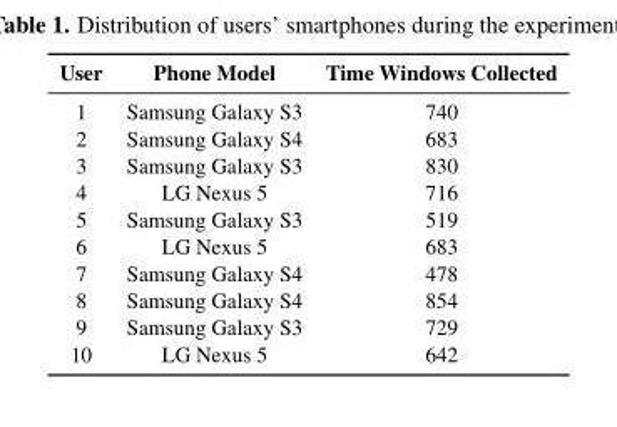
<table><thead><tr><td>User</td><td>Phone Model</td><td>Time Windows Collected</td></tr></thead><tbody><tr><td>1</td><td>Samsung Galaxy S3</td><td>740</td></tr><tr><td>2</td><td>Samsung Galaxy S4</td><td>683</td></tr><tr><td>3</td><td>Samsung Galaxy S3</td><td>830</td></tr><tr><td>4</td><td>LG Nexus 5</td><td>716</td></tr><tr><td>5</td><td>Samsung Galaxy S3</td><td>519</td></tr><tr><td>6</td><td>LG Nexus 5</td><td>683</td></tr><tr><td>7</td><td>Samsung Galaxy S4</td><td>478</td></tr><tr><td>8</td><td>Samsung Galaxy S4</td><td>854</td></tr><tr><td>9</td><td>Samsung Galaxy S3</td><td>729</td></tr><tr><td>10</td><td>LG Nexus 5</td><td>642</td></tr></tbody></table>